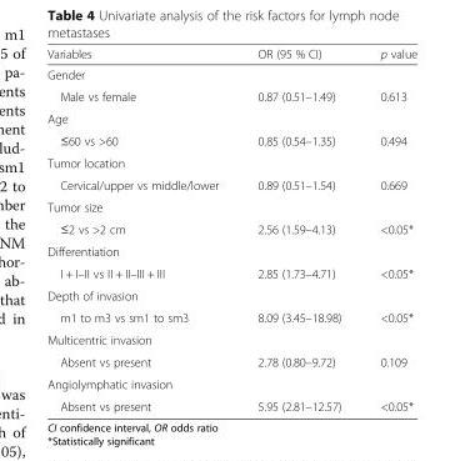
<table><thead><tr><td>Variables</td><td>OR (95 % CI)</td><td>p value</td></tr></thead><tbody><tr><td colspan="3">Gender</td></tr><tr><td>Male vs female</td><td>0.87 (0.51–1.49)</td><td>0.613</td></tr><tr><td colspan="3">Age</td></tr><tr><td>≤60 vs &gt;60</td><td>0.85 (0.54–1.35)</td><td>0.494</td></tr><tr><td colspan="3">Tumor location</td></tr><tr><td>Cervical/upper vs middle/lower</td><td>0.89 (0.51–1.54)</td><td>0.669</td></tr><tr><td colspan="3">Tumor size</td></tr><tr><td>≤2 vs &gt;2 cm</td><td>2.56 (1.59–4.13)</td><td>&lt;0.05*</td></tr><tr><td colspan="3">Differentiation</td></tr><tr><td>I + I–II vs II + II–III + III</td><td>2.85 (1.73–4.71)</td><td>&lt;0.05*</td></tr><tr><td colspan="3">Depth of invasion</td></tr><tr><td>m1 to m3 vs sm1 to sm3</td><td>8.09 (3.45–18.98)</td><td>&lt;0.05*</td></tr><tr><td colspan="3">Multicentric invasion</td></tr><tr><td>Absent vs present</td><td>2.78 (0.80–9.72)</td><td>0.109</td></tr><tr><td colspan="3">Angiolymphatic invasion</td></tr><tr><td>Absent vs present</td><td>5.95 (2.81–12.57)</td><td>&lt;0.05*</td></tr></tbody></table>